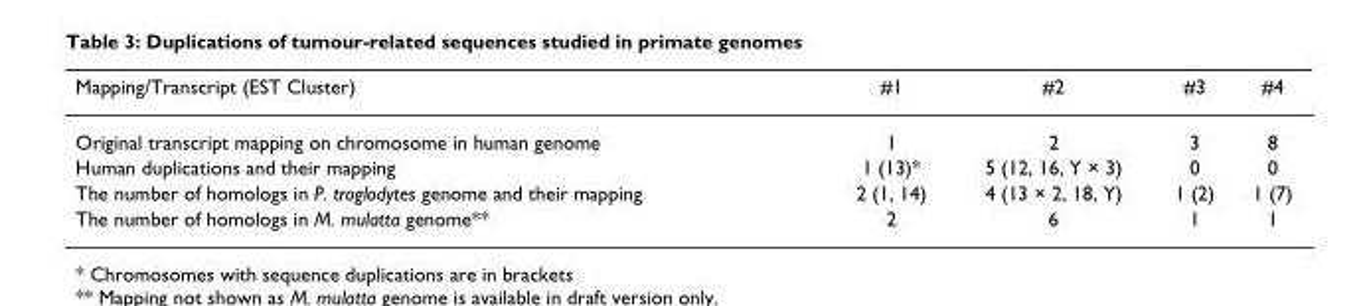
<table><thead><tr><td>Mapping/Transcript (EST Cluster)</td><td>#1</td><td>#2</td><td>#3</td><td>#4</td></tr></thead><tbody><tr><td>Original transcript mapping on chromosome in human genome</td><td>1</td><td>2</td><td>3</td><td>8</td></tr><tr><td>Human duplications and their mapping</td><td>1 (13)*</td><td>5 (12, 16, Y × 3)</td><td>0</td><td>0</td></tr><tr><td>The number of homologs in P. troglodytes genome and their mapping</td><td>2 (1, 14)</td><td>4 (13 × 2, 18, Y)</td><td>1 (2)</td><td>1 (7)</td></tr><tr><td>The number of homologs in M. mulatta genome**</td><td>2</td><td>6</td><td>1</td><td>1</td></tr></tbody></table>